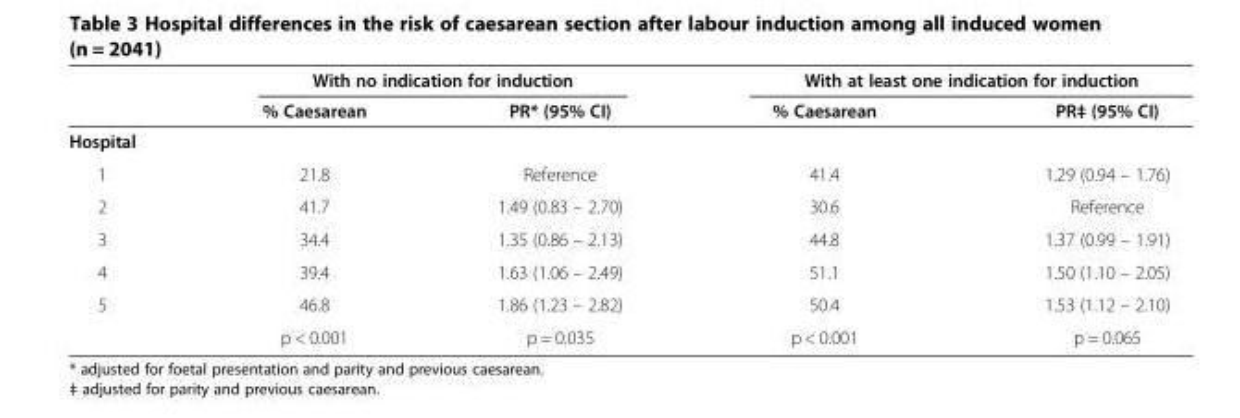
<table><thead><tr><td rowspan="2"></td><td colspan="2">With no indication for induction</td><td colspan="2">With at least one indication for induction</td></tr><tr><td>% Caesarean</td><td>PR* (95% CI)</td><td>% Caesarean</td><td>PR‡ (95% CI)</td></tr></thead><tbody><tr><td colspan="5">Hospital</td></tr><tr><td>1</td><td>21.8</td><td>Reference</td><td>41.4</td><td>1.29 (0.94 – 1.76)</td></tr><tr><td>2</td><td>41.7</td><td>1.49 (0.83 – 2.70)</td><td>30.6</td><td>Reference</td></tr><tr><td>3</td><td>34.4</td><td>1.35 (0.86 – 2.13)</td><td>44.8</td><td>1.37 (0.99 – 1.91)</td></tr><tr><td>4</td><td>39.4</td><td>1.63 (1.06 – 2.49)</td><td>51.1</td><td>1.50 (1.10 – 2.05)</td></tr><tr><td rowspan="2">5</td><td>46.8</td><td>1.86 (1.23 – 2.82)</td><td>50.4</td><td>1.53 (1.12 – 2.10)</td></tr><tr><td>p &lt; 0.001</td><td>p = 0.035</td><td>p &lt; 0.001</td><td>p = 0.065</td></tr></tbody></table>